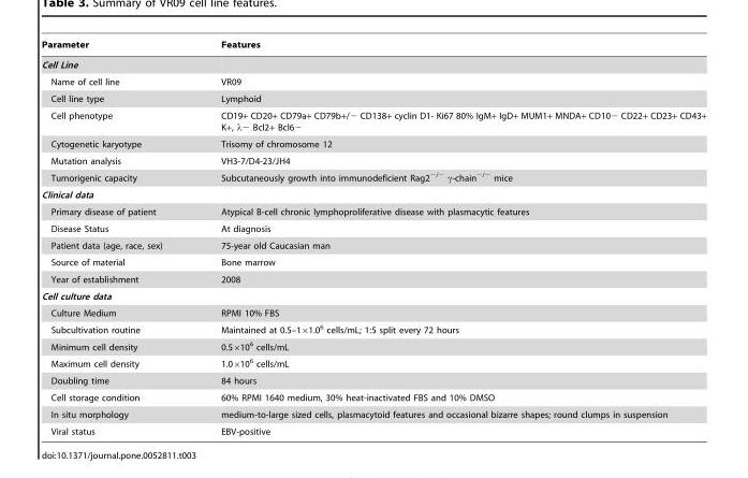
<table><thead><tr><td>Parameter</td><td>Features</td></tr></thead><tbody><tr><td colspan="2">Cell Line</td></tr><tr><td>Name of cell line</td><td>VR09</td></tr><tr><td>Cell line type</td><td>Lymphoid</td></tr><tr><td>Cell phenotype</td><td>CD19+ CD20+ CD79a+ CD79b+/− CD138+ cyclin D1- Ki67 80% IgM+ IgD+ MUM1+ MNDA+ CD10− CD22+ CD23+ CD43+ K+, λ− Bcl2+ Bcl6−</td></tr><tr><td>Cytogenetic karyotype</td><td>Trisomy of chromosome 12</td></tr><tr><td>Mutation analysis</td><td>VH3-7/D4-23/JH4</td></tr><tr><td>Tumorigenic capacity</td><td>Subcutaneously growth into immunodeficient Rag2<sup>−/−</sup> γ-chain<sup>−/−</sup> mice</td></tr><tr><td colspan="2">Clinical data</td></tr><tr><td>Primary disease of patient</td><td>Atypical B-cell chronic lymphoproliferative disease with plasmacytic features</td></tr><tr><td>Disease Status</td><td>At diagnosis</td></tr><tr><td>Patient data (age, race, sex)</td><td>75-year old Caucasian man</td></tr><tr><td>Source of material</td><td>Bone marrow</td></tr><tr><td>Year of establishment</td><td>2008</td></tr><tr><td colspan="2">Cell culture data</td></tr><tr><td>Culture Medium</td><td>RPMI 10% FBS</td></tr><tr><td>Subcultivation routine</td><td>Maintained at 0.5–1×1.06 cells/mL; 1:5 split every 72 hours</td></tr><tr><td>Minimum cell density</td><td>0.5×10<sup>6</sup> cells/mL</td></tr><tr><td>Maximum cell density</td><td>1.0×10<sup>6</sup> cells/mL</td></tr><tr><td>Doubling time</td><td>84 hours</td></tr><tr><td>Cell storage condition</td><td>60% RPMI 1640 medium, 30% heat-inactivated FBS and 10% DMSO</td></tr><tr><td>In situ morphology</td><td>medium-to-large sized cells, plasmacytoid features and occasional bizarre shapes; round clumps in suspension</td></tr><tr><td>Viral status</td><td>EBV-positive</td></tr></tbody></table>